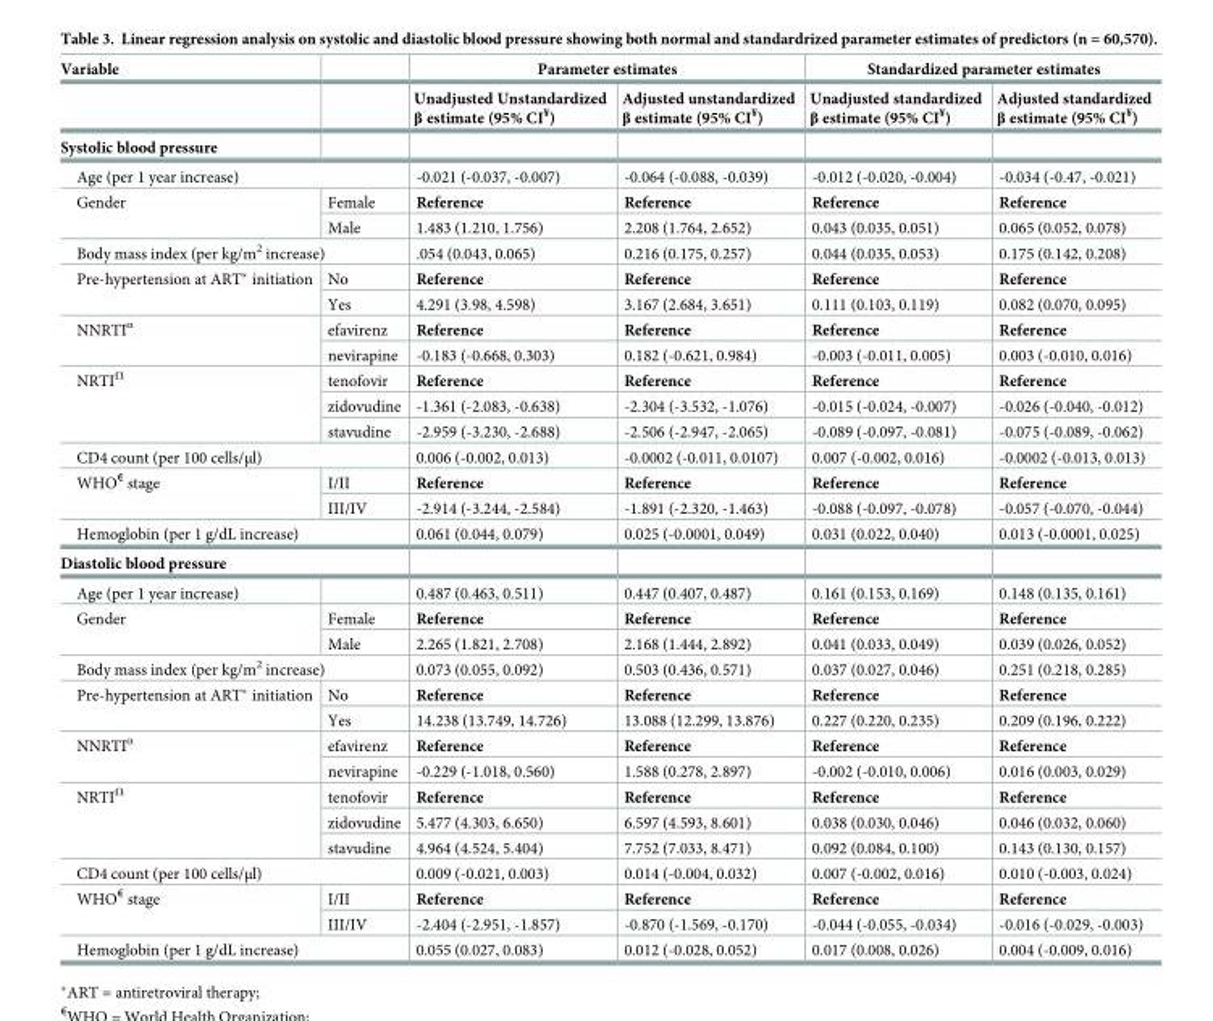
<table><thead><tr><td rowspan="2">Variable</td><td rowspan="2"></td><td colspan="2">Parameter estimates</td><td colspan="2">Standardized parameter estimates</td></tr><tr><td>Unadjusted Unstandardized β estimate (95% CI<sup>¥</sup>)</td><td>Adjusted unstandardized β estimate (95% CI<sup>¥</sup>)</td><td>Unadjusted standardized β estimate (95% CI<sup>¥</sup>)</td><td>Adjusted standardized β estimate (95% CI<sup>¥</sup>)</td></tr></thead><tbody><tr><td colspan="6">Systolic blood pressure</td></tr><tr><td colspan="2">Age (per 1 year increase)</td><td>-0.021 (-0.037, -0.007)</td><td>-0.064 (-0.088, -0.039)</td><td>-0.012 (-0.020, -0.004)</td><td>-0.034 (-0.47, -0.021)</td></tr><tr><td rowspan="2">Gender</td><td>Female</td><td>Reference</td><td>Reference</td><td>Reference</td><td>Reference</td></tr><tr><td>Male</td><td>1.483 (1.210, 1.756)</td><td>2.208 (1.764, 2.652)</td><td>0.043 (0.035, 0.051)</td><td>0.065 (0.052, 0.078)</td></tr><tr><td colspan="2">Body mass index (per kg/m<sup>2</sup> increase)</td><td>.054 (0.043, 0.065)</td><td>0.216 (0.175, 0.257)</td><td>0.044 (0.035, 0.053)</td><td>0.175 (0.142, 0.208)</td></tr><tr><td rowspan="2">Pre-hypertension at ART* initiation</td><td>No</td><td>Reference</td><td>Reference</td><td>Reference</td><td>Reference</td></tr><tr><td>Yes</td><td>4.291 (3.98, 4.598)</td><td>3.167 (2.684, 3.651)</td><td>0.111 (0.103, 0.119)</td><td>0.082 (0.070, 0.095)</td></tr><tr><td rowspan="2">NNRTI<sup>α</sup></td><td>efavirenz</td><td>Reference</td><td>Reference</td><td>Reference</td><td>Reference</td></tr><tr><td>nevirapine</td><td>-0.183 (-0.668, 0.303)</td><td>0.182 (-0.621, 0.984)</td><td>-0.003 (-0.011, 0.005)</td><td>0.003 (-0.010, 0.016)</td></tr><tr><td rowspan="3">NRTI<sup>Ω</sup></td><td>tenofovir</td><td>Reference</td><td>Reference</td><td>Reference</td><td>Reference</td></tr><tr><td>zidovudine</td><td>-1.361 (-2.083, -0.638)</td><td>-2.304 (-3.532, -1.076)</td><td>-0.015 (-0.024, -0.007)</td><td>-0.026 (-0.040, -0.012)</td></tr><tr><td>stavudine</td><td>-2.959 (-3.230, -2.688)</td><td>-2.506 (-2.947, -2.065)</td><td>-0.089 (-0.097, -0.081)</td><td>-0.075 (-0.089, -0.062)</td></tr><tr><td colspan="2">CD4 count (per 100 cells/μl)</td><td>0.006 (-0.002, 0.013)</td><td>-0.0002 (-0.011, 0.0107)</td><td>0.007 (-0.002, 0.016)</td><td>-0.0002 (-0.013, 0.013)</td></tr><tr><td rowspan="2">WHO<sup>€</sup> stage</td><td>I/II</td><td>Reference</td><td>Reference</td><td>Reference</td><td>Reference</td></tr><tr><td>III/IV</td><td>-2.914 (-3.244, -2.584)</td><td>-1.891 (-2.320, -1.463)</td><td>-0.088 (-0.097, -0.078)</td><td>-0.057 (-0.070, -0.044)</td></tr><tr><td colspan="2">Hemoglobin (per 1 g/dL increase)</td><td>0.061 (0.044, 0.079)</td><td>0.025 (-0.0001, 0.049)</td><td>0.031 (0.022, 0.040)</td><td>0.013 (-0.0001, 0.025)</td></tr><tr><td colspan="6">Diastolic blood pressure</td></tr><tr><td>Age (per 1 year increase)</td><td></td><td>0.487 (0.463, 0.511)</td><td>0.447 (0.407, 0.487)</td><td>0.161 (0.153, 0.169)</td><td>0.148 (0.135, 0.161)</td></tr><tr><td rowspan="2">Gender</td><td>Female</td><td>Reference</td><td>Reference</td><td>Reference</td><td>Reference</td></tr><tr><td>Male</td><td>2.265 (1.821, 2.708)</td><td>2.168 (1.444, 2.892)</td><td>0.041 (0.033, 0.049)</td><td>0.039 (0.026, 0.052)</td></tr><tr><td colspan="2">Body mass index (per kg/m<sup>2</sup> increase)</td><td>0.073 (0.055, 0.092)</td><td>0.503 (0.436, 0.571)</td><td>0.037 (0.027, 0.046)</td><td>0.251 (0.218, 0.285)</td></tr><tr><td rowspan="2">Pre-hypertension at ART* initiation</td><td>No</td><td>Reference</td><td>Reference</td><td>Reference</td><td>Reference</td></tr><tr><td>Yes</td><td>14.238 (13.749, 14.726)</td><td>13.088 (12.299, 13.876)</td><td>0.227 (0.220, 0.235)</td><td>0.209 (0.196, 0.222)</td></tr><tr><td rowspan="2">NNRTI<sup>α</sup></td><td>efavirenz</td><td>Reference</td><td>Reference</td><td>Reference</td><td>Reference</td></tr><tr><td>nevirapine</td><td>-0.229 (-1.018, 0.560)</td><td>1.588 (0.278, 2.897)</td><td>-0.002 (-0.010, 0.006)</td><td>0.016 (0.003, 0.029)</td></tr><tr><td rowspan="3">NRTI<sup>Ω</sup></td><td>tenofovir</td><td>Reference</td><td>Reference</td><td>Reference</td><td>Reference</td></tr><tr><td>zidovudine</td><td>5.477 (4.303, 6.650)</td><td>6.597 (4.593, 8.601)</td><td>0.038 (0.030, 0.046)</td><td>0.046 (0.032, 0.060)</td></tr><tr><td>stavudine</td><td>4.964 (4.524, 5.404)</td><td>7.752 (7.033, 8.471)</td><td>0.092 (0.084, 0.100)</td><td>0.143 (0.130, 0.157)</td></tr><tr><td colspan="2">CD4 count (per 100 cells/μl)</td><td>0.009 (-0.021, 0.003)</td><td>0.014 (-0.004, 0.032)</td><td>0.007 (-0.002, 0.016)</td><td>0.010 (-0.003, 0.024)</td></tr><tr><td rowspan="2">WHO<sup>€</sup> stage</td><td>I/II</td><td>Reference</td><td>Reference</td><td>Reference</td><td>Reference</td></tr><tr><td>III/IV</td><td>-2.404 (-2.951, -1.857)</td><td>-0.870 (-1.569, -0.170)</td><td>-0.044 (-0.055, -0.034)</td><td>-0.016 (-0.029, -0.003)</td></tr><tr><td colspan="2">Hemoglobin (per 1 g/dL increase)</td><td>0.055 (0.027, 0.083)</td><td>0.012 (-0.028, 0.052)</td><td>0.017 (0.008, 0.026)</td><td>0.004 (-0.009, 0.016)</td></tr></tbody></table>